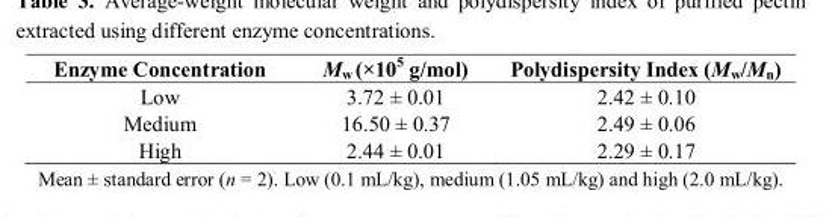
<table><thead><tr><td>Enzyme Concentration</td><td>M<sub>w</sub> (×10<sup>5</sup> g/mol)</td><td>Polydispersity Index (M<sub>w</sub>/M<sub>n</sub>)</td></tr></thead><tbody><tr><td>Low</td><td>3.72 ± 0.01</td><td>2.42 ± 0.10</td></tr><tr><td>Medium</td><td>16.50 ± 0.37</td><td>2.49 ± 0.06</td></tr><tr><td>High</td><td>2.44 ± 0.01</td><td>2.29 ± 0.17</td></tr></tbody></table>